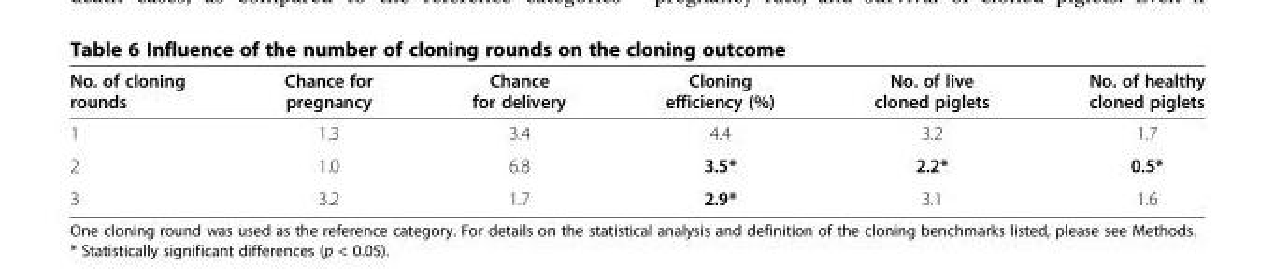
<table><thead><tr><td>No. of cloning rounds</td><td>Chance for pregnancy</td><td>Chance for delivery</td><td>Cloning efficiency (%)</td><td>No. of live cloned piglets</td><td>No. of healthy cloned piglets</td></tr></thead><tbody><tr><td>1</td><td>1.3</td><td>3.4</td><td>4.4</td><td>3.2</td><td>1.7</td></tr><tr><td>2</td><td>1.0</td><td>6.8</td><td>3.5*</td><td>2.2*</td><td>0.5*</td></tr><tr><td>3</td><td>3.2</td><td>1.7</td><td>2.9*</td><td>3.1</td><td>1.6</td></tr></tbody></table>